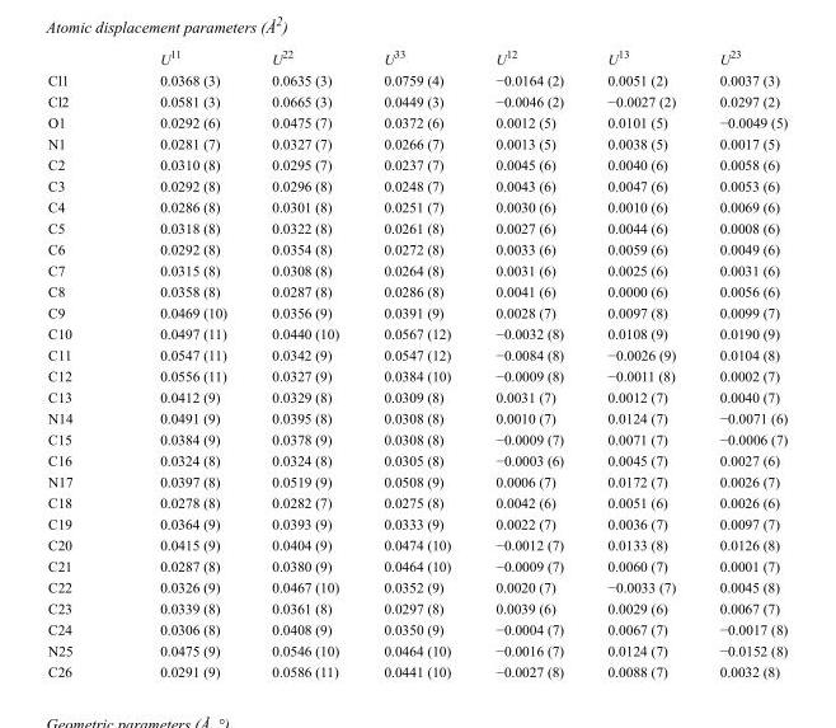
<table><thead><tr><td></td><td>U<sup>11</sup></td><td>U<sup>22</sup></td><td>U<sup>33</sup></td><td>U<sup>12</sup></td><td>U<sup>13</sup></td><td>U<sup>23</sup></td></tr></thead><tbody><tr><td>Cl1</td><td>0.0368 (3)</td><td>0.0635 (3)</td><td>0.0759 (4)</td><td>−0.0164 (2)</td><td>0.0051 (2)</td><td>0.0037 (3)</td></tr><tr><td>Cl2</td><td>0.0581 (3)</td><td>0.0665 (3)</td><td>0.0449 (3)</td><td>−0.0046 (2)</td><td>−0.0027 (2)</td><td>0.0297 (2)</td></tr><tr><td>O1</td><td>0.0292 (6)</td><td>0.0475 (7)</td><td>0.0372 (6)</td><td>0.0012 (5)</td><td>0.0101 (5)</td><td>−0.0049 (5)</td></tr><tr><td>N1</td><td>0.0281 (7)</td><td>0.0327 (7)</td><td>0.0266 (7)</td><td>0.0013 (5)</td><td>0.0038 (5)</td><td>0.0017 (5)</td></tr><tr><td>C2</td><td>0.0310 (8)</td><td>0.0295 (7)</td><td>0.0237 (7)</td><td>0.0045 (6)</td><td>0.0040 (6)</td><td>0.0058 (6)</td></tr><tr><td>C3</td><td>0.0292 (8)</td><td>0.0296 (8)</td><td>0.0248 (7)</td><td>0.0043 (6)</td><td>0.0047 (6)</td><td>0.0053 (6)</td></tr><tr><td>C4</td><td>0.0286 (8)</td><td>0.0301 (8)</td><td>0.0251 (7)</td><td>0.0030 (6)</td><td>0.0010 (6)</td><td>0.0069 (6)</td></tr><tr><td>C5</td><td>0.0318 (8)</td><td>0.0322 (8)</td><td>0.0261 (8)</td><td>0.0027 (6)</td><td>0.0044 (6)</td><td>0.0008 (6)</td></tr><tr><td>C6</td><td>0.0292 (8)</td><td>0.0354 (8)</td><td>0.0272 (8)</td><td>0.0033 (6)</td><td>0.0059 (6)</td><td>0.0049 (6)</td></tr><tr><td>C7</td><td>0.0315 (8)</td><td>0.0308 (8)</td><td>0.0264 (8)</td><td>0.0031 (6)</td><td>0.0025 (6)</td><td>0.0031 (6)</td></tr><tr><td>C8</td><td>0.0358 (8)</td><td>0.0287 (8)</td><td>0.0286 (8)</td><td>0.0041 (6)</td><td>0.0000 (6)</td><td>0.0056 (6)</td></tr><tr><td>C9</td><td>0.0469 (10)</td><td>0.0356 (9)</td><td>0.0391 (9)</td><td>0.0028 (7)</td><td>0.0097 (8)</td><td>0.0099 (7)</td></tr><tr><td>C10</td><td>0.0497 (11)</td><td>0.0440 (10)</td><td>0.0567 (12)</td><td>−0.0032 (8)</td><td>0.0108 (9)</td><td>0.0190 (9)</td></tr><tr><td>C11</td><td>0.0547 (11)</td><td>0.0342 (9)</td><td>0.0547 (12)</td><td>−0.0084 (8)</td><td>−0.0026 (9)</td><td>0.0104 (8)</td></tr><tr><td>C12</td><td>0.0556 (11)</td><td>0.0327 (9)</td><td>0.0384 (10)</td><td>−0.0009 (8)</td><td>−0.0011 (8)</td><td>0.0002 (7)</td></tr><tr><td>C13</td><td>0.0412 (9)</td><td>0.0329 (8)</td><td>0.0309 (8)</td><td>0.0031 (7)</td><td>0.0012 (7)</td><td>0.0040 (7)</td></tr><tr><td>N14</td><td>0.0491 (9)</td><td>0.0395 (8)</td><td>0.0308 (8)</td><td>0.0010 (7)</td><td>0.0124 (7)</td><td>−0.0071 (6)</td></tr><tr><td>C15</td><td>0.0384 (9)</td><td>0.0378 (9)</td><td>0.0308 (8)</td><td>−0.0009 (7)</td><td>0.0071 (7)</td><td>−0.0006 (7)</td></tr><tr><td>C16</td><td>0.0324 (8)</td><td>0.0324 (8)</td><td>0.0305 (8)</td><td>−0.0003 (6)</td><td>0.0045 (7)</td><td>0.0027 (6)</td></tr><tr><td>N17</td><td>0.0397 (8)</td><td>0.0519 (9)</td><td>0.0508 (9)</td><td>0.0006 (7)</td><td>0.0172 (7)</td><td>0.0026 (7)</td></tr><tr><td>C18</td><td>0.0278 (8)</td><td>0.0282 (7)</td><td>0.0275 (8)</td><td>0.0042 (6)</td><td>0.0051 (6)</td><td>0.0026 (6)</td></tr><tr><td>C19</td><td>0.0364 (9)</td><td>0.0393 (9)</td><td>0.0333 (9)</td><td>0.0022 (7)</td><td>0.0036 (7)</td><td>0.0097 (7)</td></tr><tr><td>C20</td><td>0.0415 (9)</td><td>0.0404 (9)</td><td>0.0474 (10)</td><td>−0.0012 (7)</td><td>0.0133 (8)</td><td>0.0126 (8)</td></tr><tr><td>C21</td><td>0.0287 (8)</td><td>0.0380 (9)</td><td>0.0464 (10)</td><td>−0.0009 (7)</td><td>0.0060 (7)</td><td>0.0001 (7)</td></tr><tr><td>C22</td><td>0.0326 (9)</td><td>0.0467 (10)</td><td>0.0352 (9)</td><td>0.0020 (7)</td><td>−0.0033 (7)</td><td>0.0045 (8)</td></tr><tr><td>C23</td><td>0.0339 (8)</td><td>0.0361 (8)</td><td>0.0297 (8)</td><td>0.0039 (6)</td><td>0.0029 (6)</td><td>0.0067 (7)</td></tr><tr><td>C24</td><td>0.0306 (8)</td><td>0.0408 (9)</td><td>0.0350 (9)</td><td>−0.0004 (7)</td><td>0.0067 (7)</td><td>−0.0017 (8)</td></tr><tr><td>N25</td><td>0.0475 (9)</td><td>0.0546 (10)</td><td>0.0464 (10)</td><td>−0.0016 (7)</td><td>0.0124 (7)</td><td>−0.0152 (8)</td></tr><tr><td>C26</td><td>0.0291 (9)</td><td>0.0586 (11)</td><td>0.0441 (10)</td><td>−0.0027 (8)</td><td>0.0088 (7)</td><td>0.0032 (8)</td></tr></tbody></table>